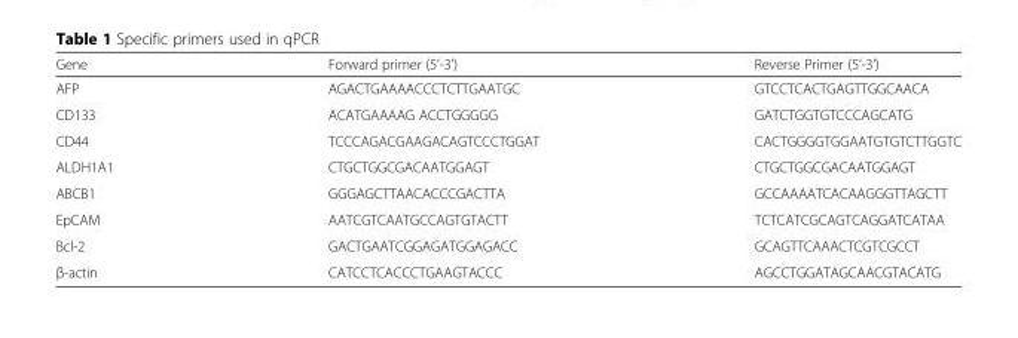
<table><thead><tr><td>Gene</td><td>Forward primer (5’-3’)</td><td>Reverse Primer (5’-3’)</td></tr></thead><tbody><tr><td>AFP</td><td>AGACTGAAAACCCTCTTGAATGC</td><td>GTCCTCACTGAGTTGGCAACA</td></tr><tr><td>CD133</td><td>ACATGAAAAG ACCTGGGGG</td><td>GATCTGGTGTCCCAGCATG</td></tr><tr><td>CD44</td><td>TCCCAGACGAAGACAGTCCCTGGAT</td><td>CACTGGGGTGGAATGTGTCTTGGTC</td></tr><tr><td>ALDH1A1</td><td>CTGCTGGCGACAATGGAGT</td><td>CTGCTGGCGACAATGGAGT</td></tr><tr><td>ABCB1</td><td>GGGAGCTTAACACCCGACTTA</td><td>GCCAAAATCACAAGGGTTAGCTT</td></tr><tr><td>EpCAM</td><td>AATCGTCAATGCCAGTGTACTT</td><td>TCTCATCGCAGTCAGGATCATAA</td></tr><tr><td>Bcl-2</td><td>GACTGAATCGGAGATGGAGACC</td><td>GCAGTTCAAACTCGTCGCCT</td></tr><tr><td>β-actin</td><td>CATCCTCACCCTGAAGTACCC</td><td>AGCCTGGATAGCAACGTACATG</td></tr></tbody></table>